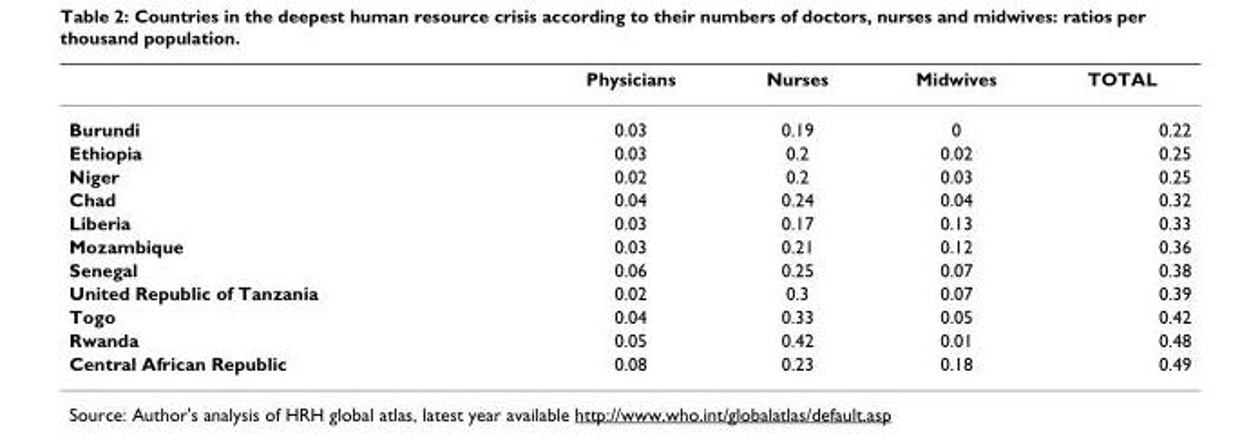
<table><thead><tr><td></td><td>Physicians</td><td>Nurses</td><td>Midwives</td><td>TOTAL</td></tr></thead><tbody><tr><td>Burundi</td><td>0.03</td><td>0.19</td><td>0</td><td>0.22</td></tr><tr><td>Ethiopia</td><td>0.03</td><td>0.2</td><td>0.02</td><td>0.25</td></tr><tr><td>Niger</td><td>0.02</td><td>0.2</td><td>0.03</td><td>0.25</td></tr><tr><td>Chad</td><td>0.04</td><td>0.24</td><td>0.04</td><td>0.32</td></tr><tr><td>Liberia</td><td>0.03</td><td>0.17</td><td>0.13</td><td>0.33</td></tr><tr><td>Mozambique</td><td>0.03</td><td>0.21</td><td>0.12</td><td>0.36</td></tr><tr><td>Senegal</td><td>0.06</td><td>0.25</td><td>0.07</td><td>0.38</td></tr><tr><td>United Republic of Tanzania</td><td>0.02</td><td>0.3</td><td>0.07</td><td>0.39</td></tr><tr><td>Togo</td><td>0.04</td><td>0.33</td><td>0.05</td><td>0.42</td></tr><tr><td>Rwanda</td><td>0.05</td><td>0.42</td><td>0.01</td><td>0.48</td></tr><tr><td>Central African Republic</td><td>0.08</td><td>0.23</td><td>0.18</td><td>0.49</td></tr></tbody></table>